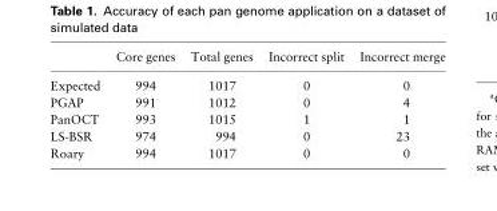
<table><thead><tr><td></td><td>Core genes</td><td>Total genes</td><td>Incorrect split</td><td>Incorrect merge</td></tr></thead><tbody><tr><td>Expected</td><td>994</td><td>1017</td><td>0</td><td>0</td></tr><tr><td>PGAP</td><td>991</td><td>1012</td><td>0</td><td>4</td></tr><tr><td>PanOCT</td><td>993</td><td>1015</td><td>1</td><td>1</td></tr><tr><td>LS-BSR</td><td>974</td><td>994</td><td>0</td><td>23</td></tr><tr><td>Roary</td><td>994</td><td>1017</td><td>0</td><td>0</td></tr></tbody></table>